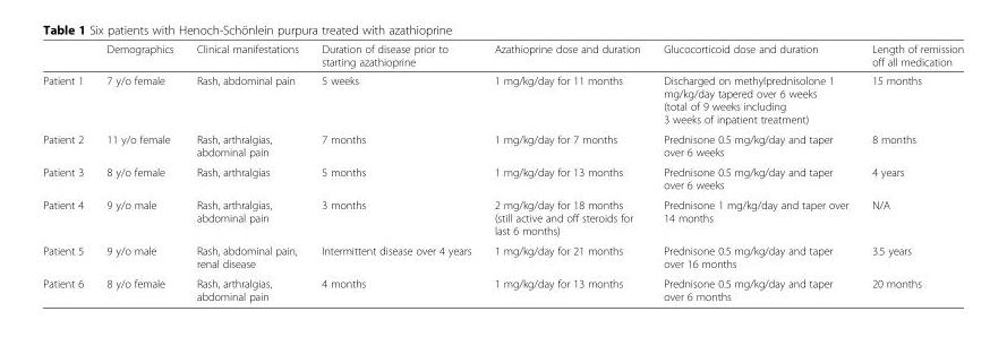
<table><thead><tr><td></td><td>Demographics</td><td>Clinical manifestations</td><td>Duration of disease prior to starting azathioprine</td><td>Azathioprine dose and duration</td><td>Glucocorticoid dose and duration</td><td>Length of remission off all medication</td></tr></thead><tbody><tr><td>Patient 1</td><td>7 y/o female</td><td>Rash, abdominal pain</td><td>5 weeks</td><td>1 mg/kg/day for 11 months</td><td>Discharged on methylprednisolone 1 mg/kg/day tapered over 6 weeks (total of 9 weeks including 3 weeks of inpatient treatment)</td><td>15 months</td></tr><tr><td>Patient 2</td><td>11 y/o female</td><td>Rash, arthralgias, abdominal pain</td><td>7 months</td><td>1 mg/kg/day for 7 months</td><td>Prednisone 0.5 mg/kg/day and taper over 6 weeks</td><td>8 months</td></tr><tr><td>Patient 3</td><td>8 y/o female</td><td>Rash, arthralgias</td><td>5 months</td><td>1 mg/kg/day for 13 months</td><td>Prednisone 0.5 mg/kg/day and taper over 6 weeks</td><td>4 years</td></tr><tr><td>Patient 4</td><td>9 y/o male</td><td>Rash, arthralgias, abdominal pain</td><td>3 months</td><td>2 mg/kg/day for 18 months (still active and off steroids for last 6 months)</td><td>Prednisone 1 mg/kg/day and taper over 14 months</td><td>N/A</td></tr><tr><td>Patient 5</td><td>9 y/o male</td><td>Rash, abdominal pain, renal disease</td><td>Intermittent disease over 4 years</td><td>1 mg/kg/day for 21 months</td><td>Prednisone 0.5 mg/kg/day and taper over 16 months</td><td>3.5 years</td></tr><tr><td>Patient 6</td><td>8 y/o female</td><td>Rash, arthralgias, abdominal pain</td><td>4 months</td><td>1 mg/kg/day for 13 months</td><td>Prednisone 0.5 mg/kg/day and taper over 6 months</td><td>20 months</td></tr></tbody></table>